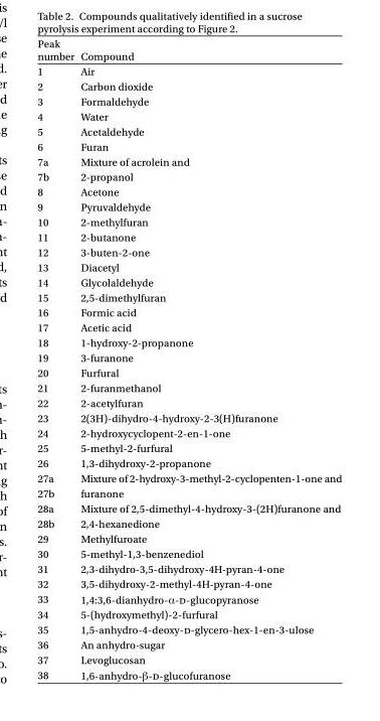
<table><thead><tr><td>Peak number</td><td>Compound</td></tr></thead><tbody><tr><td>1</td><td>Air</td></tr><tr><td>2</td><td>Carbon dioxide</td></tr><tr><td>3</td><td>Formaldehyde</td></tr><tr><td>4</td><td>Water</td></tr><tr><td>5</td><td>Acetaldehyde</td></tr><tr><td>6</td><td>Furan</td></tr><tr><td>7a</td><td>Mixture of acrolein and</td></tr><tr><td>7b</td><td>2-propanol</td></tr><tr><td>8</td><td>Acetone</td></tr><tr><td>9</td><td>Pyruvaldehyde</td></tr><tr><td>10</td><td>2-methylfuran</td></tr><tr><td>11</td><td>2-butanone</td></tr><tr><td>12</td><td>3-buten-2-one</td></tr><tr><td>13</td><td>Diacetyl</td></tr><tr><td>14</td><td>Glycolaldehyde</td></tr><tr><td>15</td><td>2,5-dimethylfuran</td></tr><tr><td>16</td><td>Formic acid</td></tr><tr><td>17</td><td>Acetic acid</td></tr><tr><td>18</td><td>1-hydroxy-2-propanone</td></tr><tr><td>19</td><td>3-furanone</td></tr><tr><td>20</td><td>Furfural</td></tr><tr><td>21</td><td>2-furanmethanol</td></tr><tr><td>22</td><td>2-acetylfuran</td></tr><tr><td>23</td><td>2(3H)-dihydro-4-hydroxy-2-3(H)furanone</td></tr><tr><td>24</td><td>2-hydroxycyclopent-2-en-1-one</td></tr><tr><td>25</td><td>5-methyl-2-furfural</td></tr><tr><td>26</td><td>1,3-dihydroxy-2-propanone</td></tr><tr><td>27a</td><td>Mixture of 2-hydroxy-3-methyl-2-cyclopenten-1-one and</td></tr><tr><td>27b</td><td>furanone</td></tr><tr><td>28a</td><td>Mixture of 2,5-dimethyl-4-hydroxy-3-(2H)furanone and</td></tr><tr><td>28b</td><td>2,4-hexanedione</td></tr><tr><td>29</td><td>Methylfuroate</td></tr><tr><td>30</td><td>5-methyl-1,3-benzenediol</td></tr><tr><td>31</td><td>2,3-dihydro-3,5-dihydroxy-4H-pyran-4-one</td></tr><tr><td>32</td><td>3,5-dihydroxy-2-methyl-4H-pyran-4-one</td></tr><tr><td>33</td><td>1,4:3,6-dianhydro-α-d-glucopyranose</td></tr><tr><td>34</td><td>5-(hydroxymethyl)-2-furfural</td></tr><tr><td>35</td><td>1,5-anhydro-4-deoxy-d-glycero-hex-1-en-3-ulose</td></tr><tr><td>36</td><td>An anhydro-sugar</td></tr><tr><td>37</td><td>Levoglucosan</td></tr><tr><td>38</td><td>1,6-anhydro-β-d-glucofuranose</td></tr></tbody></table>